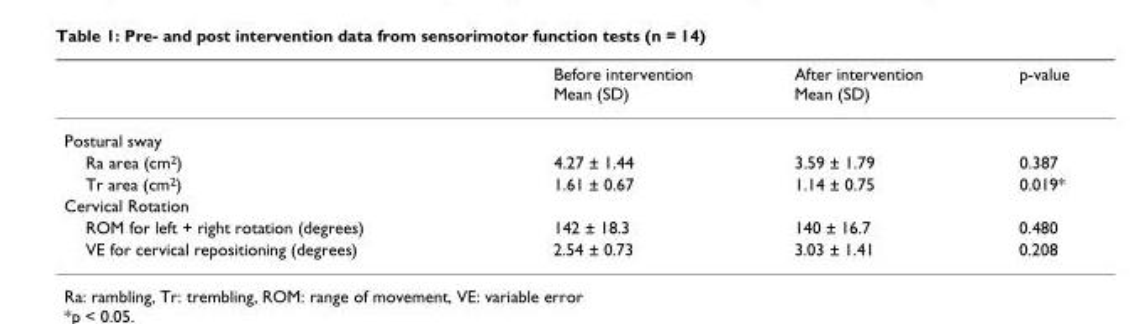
<table><thead><tr><td></td><td>Before intervention Mean (SD)</td><td>After intervention Mean (SD)</td><td>p-value</td></tr></thead><tbody><tr><td colspan="4">Postural sway</td></tr><tr><td>Ra area (cm<sup>2</sup>)</td><td>4.27 ± 1.44</td><td>3.59 ± 1.79</td><td>0.387</td></tr><tr><td>Tr area (cm<sup>2</sup>)</td><td>1.61 ± 0.67</td><td>1.14 ± 0.75</td><td>0.019*</td></tr><tr><td colspan="4">Cervical Rotation</td></tr><tr><td>ROM for left + right rotation (degrees)</td><td>142 ± 18.3</td><td>140 ± 16.7</td><td>0.480</td></tr><tr><td>VE for cervical repositioning (degrees)</td><td>2.54 ± 0.73</td><td>3.03 ± 1.41</td><td>0.208</td></tr></tbody></table>